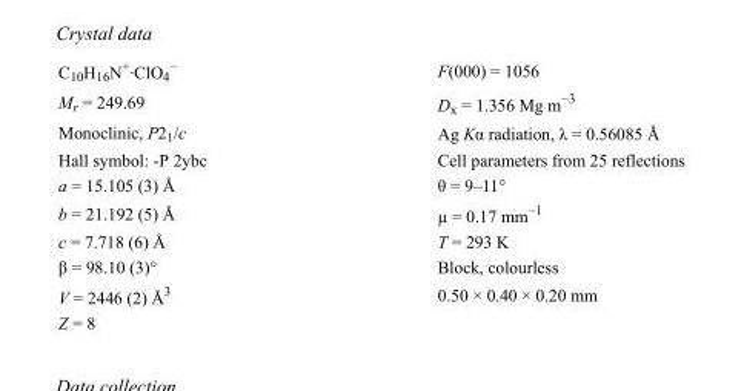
<table><tbody><tr><td>C<sub>10</sub>H<sub>16</sub>N<sup>+</sup>·ClO<sub>4</sub> <sup>−</sup></td><td>F(000) = 1056</td></tr><tr><td>M<sub>r</sub> = 249.69</td><td>D<sub>x</sub> = 1.356 Mg m<sup>−3</sup></td></tr><tr><td>Monoclinic, P2<sub>1</sub>/c</td><td>Ag Kα radiation, λ = 0.56085 Å</td></tr><tr><td>Hall symbol: -P 2ybc</td><td>Cell parameters from 25 reflections</td></tr><tr><td>a = 15.105 (3) Å</td><td>θ = 9–11°</td></tr><tr><td>b = 21.192 (5) Å</td><td>µ = 0.17 mm<sup>−1</sup></td></tr><tr><td>c = 7.718 (6) Å</td><td>T = 293 K</td></tr><tr><td>β = 98.10 (3)°</td><td>Block, colourless</td></tr><tr><td>V = 2446 (2) Å<sup>3</sup></td><td>0.50 × 0.40 × 0.20 mm</td></tr><tr><td>Z = 8</td><td></td></tr></tbody></table>